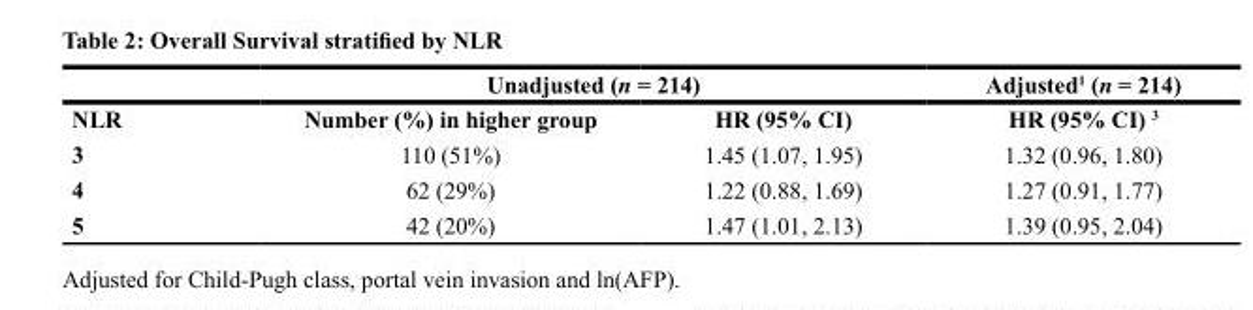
<table><thead><tr><td rowspan="2">NLR</td><td colspan="2">Unadjusted (n = 214)</td><td rowspan="2">Adjusted<sup>1</sup> (n = 214) HR (95% CI) <sup>3</sup></td></tr><tr><td>Number (%) in higher group</td><td>HR (95% CI)</td></tr></thead><tbody><tr><td>3</td><td>110 (51%)</td><td>1.45 (1.07, 1.95)</td><td>1.32 (0.96, 1.80)</td></tr><tr><td>4</td><td>62 (29%)</td><td>1.22 (0.88, 1.69)</td><td>1.27 (0.91, 1.77)</td></tr><tr><td>5</td><td>42 (20%)</td><td>1.47 (1.01, 2.13)</td><td>1.39 (0.95, 2.04)</td></tr></tbody></table>